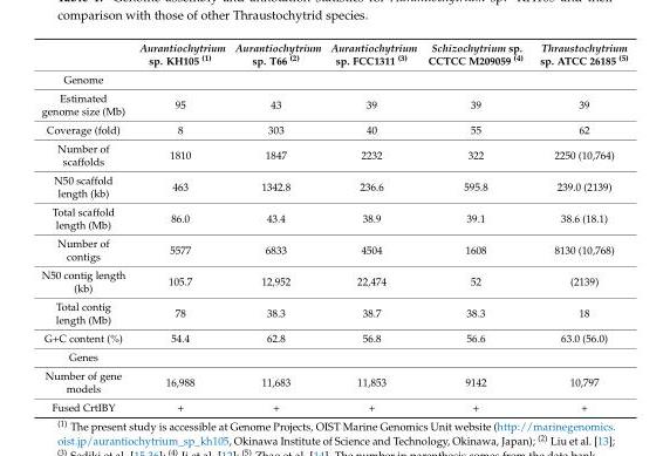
<table><thead><tr><td></td><td>Aurantiochytrium sp. KH105 <sup>(1)</sup></td><td>Aurantiochytrium sp. T66 <sup>(2)</sup></td><td>Aurantiochytrium sp. FCC1311 <sup>(3)</sup></td><td>Schizochytrium sp. CCTCC M209059 <sup>(4)</sup></td><td>Thraustochytrium sp. ATCC 26185 <sup>(5)</sup></td></tr></thead><tbody><tr><td colspan="6">Genome</td></tr><tr><td>Estimated genome size (Mb)</td><td>95</td><td>43</td><td>39</td><td>39</td><td>39</td></tr><tr><td>Coverage (fold)</td><td>8</td><td>303</td><td>40</td><td>55</td><td>62</td></tr><tr><td>Number of scaffolds</td><td>1810</td><td>1847</td><td>2232</td><td>322</td><td>2250 (10,764)</td></tr><tr><td>N50 scaffold length (kb)</td><td>463</td><td>1342.8</td><td>236.6</td><td>595.8</td><td>239.0 (2139)</td></tr><tr><td>Total scaffold length (Mb)</td><td>86.0</td><td>43.4</td><td>38.9</td><td>39.1</td><td>38.6 (18.1)</td></tr><tr><td>Number of contigs</td><td>5577</td><td>6833</td><td>4504</td><td>1608</td><td>8130 (10,768)</td></tr><tr><td>N50 contig length (kb)</td><td>105.7</td><td>12,952</td><td>22,474</td><td>52</td><td>(2139)</td></tr><tr><td>Total contig length (Mb)</td><td>78</td><td>38.3</td><td>38.7</td><td>38.3</td><td>18</td></tr><tr><td>G+C content (%)</td><td>54.4</td><td>62.8</td><td>56.8</td><td>56.6</td><td>63.0 (56.0)</td></tr><tr><td colspan="6">Genes</td></tr><tr><td>Number of gene models</td><td>16,988</td><td>11,683</td><td>11,853</td><td>9142</td><td>10,797</td></tr><tr><td>Fused CrtIBY</td><td>+</td><td>+</td><td>+</td><td>+</td><td>+</td></tr></tbody></table>